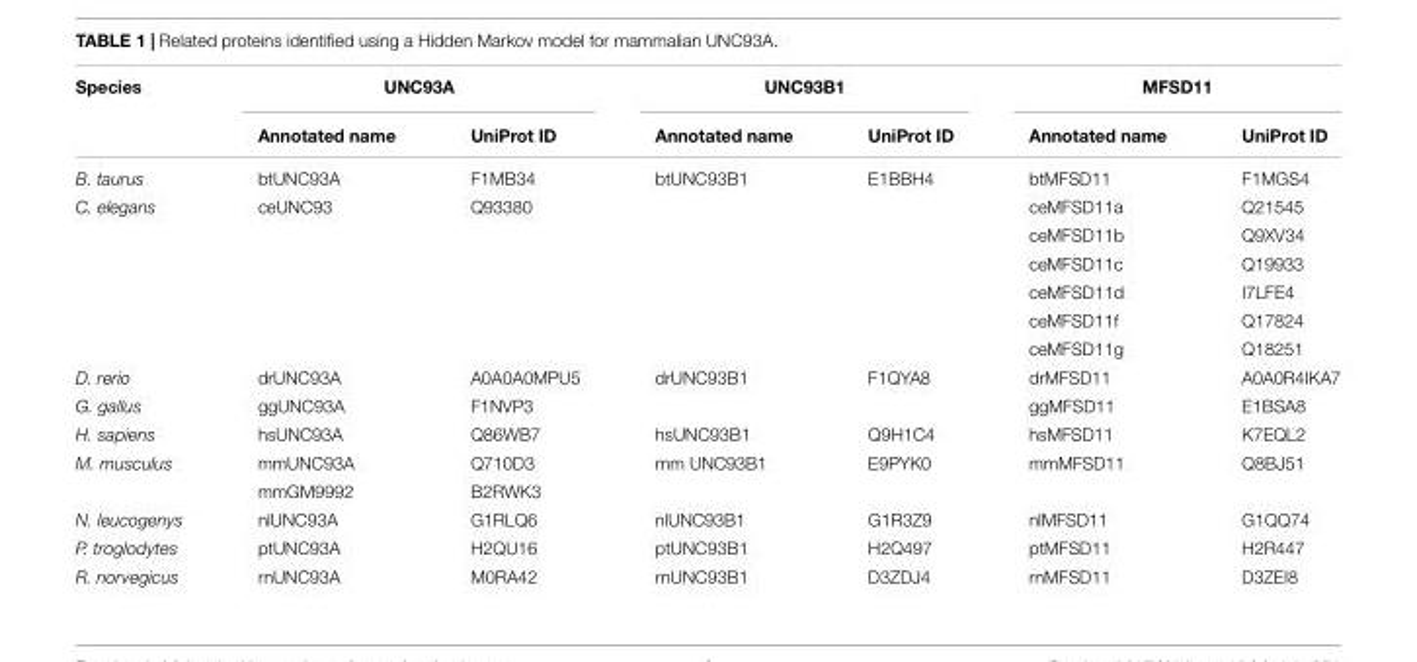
<table><thead><tr><td rowspan="2">Species</td><td colspan="2">UNC93A</td><td colspan="2">UNC93B1</td><td colspan="2">MFSD11</td></tr><tr><td>Annotated name</td><td>UniProt ID</td><td>Annotated name</td><td>UniProt ID</td><td>Annotated name</td><td>UniProt ID</td></tr></thead><tbody><tr><td>B. taurus</td><td>btUNC93A</td><td>F1MB34</td><td>btUNC93B1</td><td>E1BBH4</td><td>btMFSD11</td><td>F1MGS4</td></tr><tr><td rowspan="6">C. elegans</td><td>ceUNC93</td><td>Q93380</td><td></td><td></td><td>ceMFSD11a</td><td>Q21545</td></tr><tr><td></td><td></td><td></td><td></td><td>ceMFSD11b</td><td>Q9XV34</td></tr><tr><td></td><td></td><td></td><td></td><td>ceMFSD11c</td><td>Q19933</td></tr><tr><td></td><td></td><td></td><td></td><td>ceMFSD11d</td><td>I7LFE4</td></tr><tr><td></td><td></td><td></td><td></td><td>ceMFSD11f</td><td>Q17824</td></tr><tr><td></td><td></td><td></td><td></td><td>ceMFSD11g</td><td>Q18251</td></tr><tr><td>D. rerio</td><td>drUNC93A</td><td>A0A0A0MPU5</td><td>drUNC93B1</td><td>F1QYA8</td><td>drMFSD11</td><td>A0A0R4IKA7</td></tr><tr><td>G. gallus</td><td>ggUNC93A</td><td>F1NVP3</td><td></td><td></td><td>ggMFSD11</td><td>E1BSA8</td></tr><tr><td>H. sapiens</td><td>hsUNC93A</td><td>Q86WB7</td><td>hsUNC93B1</td><td>Q9H1C4</td><td>hsMFSD11</td><td>K7EQL2</td></tr><tr><td rowspan="2">M. musculus</td><td>mmUNC93A</td><td>Q710D3</td><td>mm UNC93B1</td><td>E9PYK0</td><td>mmMFSD11</td><td>Q8BJ51</td></tr><tr><td>mmGM9992</td><td>B2RWK3</td><td></td><td></td><td></td><td></td></tr><tr><td>N. leucogenys</td><td>nlUNC93A</td><td>G1RLQ6</td><td>nlUNC93B1</td><td>G1R3Z9</td><td>nlMFSD11</td><td>G1QQ74</td></tr><tr><td>P. troglodytes</td><td>ptUNC93A</td><td>H2QU16</td><td>ptUNC93B1</td><td>H2Q497</td><td>ptMFSD11</td><td>H2R447</td></tr><tr><td>R. norvegicus</td><td>rnUNC93A</td><td>M0RA42</td><td>rnUNC93B1</td><td>D3ZDJ4</td><td>rnMFSD11</td><td>D3ZEI8</td></tr></tbody></table>